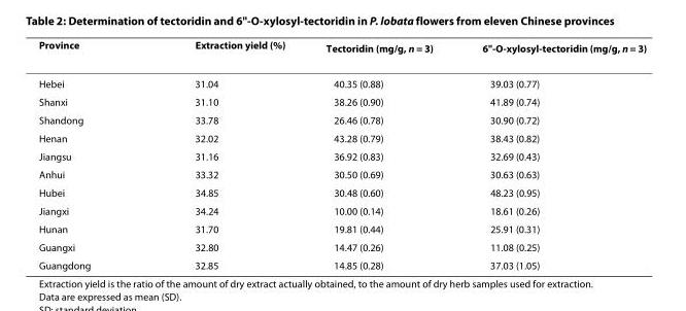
<table><thead><tr><td>Province</td><td>Extraction yield (%)</td><td>Tectoridin (mg/g, n = 3)</td><td>6&quot;-O-xylosyl-tectoridin (mg/g, n = 3)</td></tr></thead><tbody><tr><td>Hebei</td><td>31.04</td><td>40.35 (0.88)</td><td>39.03 (0.77)</td></tr><tr><td>Shanxi</td><td>31.10</td><td>38.26 (0.90)</td><td>41.89 (0.74)</td></tr><tr><td>Shandong</td><td>33.78</td><td>26.46 (0.78)</td><td>30.90 (0.72)</td></tr><tr><td>Henan</td><td>32.02</td><td>43.28 (0.79)</td><td>38.43 (0.82)</td></tr><tr><td>Jiangsu</td><td>31.16</td><td>36.92 (0.83)</td><td>32.69 (0.43)</td></tr><tr><td>Anhui</td><td>33.32</td><td>30.50 (0.69)</td><td>30.63 (0.63)</td></tr><tr><td>Hubei</td><td>34.85</td><td>30.48 (0.60)</td><td>48.23 (0.95)</td></tr><tr><td>Jiangxi</td><td>34.24</td><td>10.00 (0.14)</td><td>18.61 (0.26)</td></tr><tr><td>Hunan</td><td>31.70</td><td>19.81 (0.44)</td><td>25.91 (0.31)</td></tr><tr><td>Guangxi</td><td>32.80</td><td>14.47 (0.26)</td><td>11.08 (0.25)</td></tr><tr><td>Guangdong</td><td>32.85</td><td>14.85 (0.28)</td><td>37.03 (1.05)</td></tr></tbody></table>